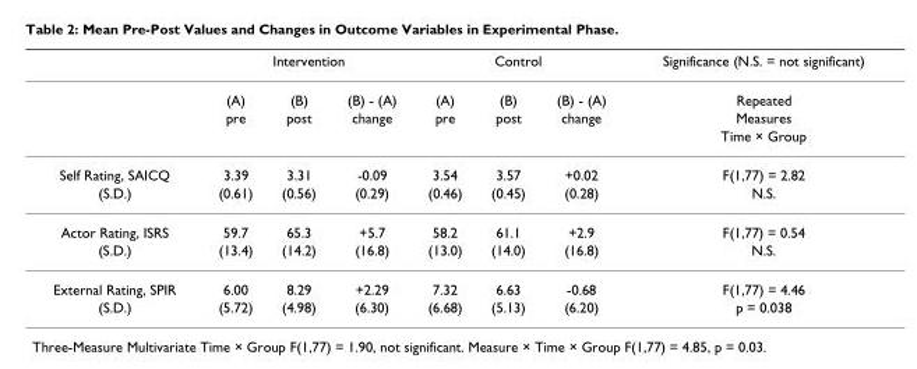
<table><thead><tr><td rowspan="2"></td><td colspan="3">Intervention</td><td colspan="3">Control</td><td rowspan="2">Significance (N.S. = not significant) Repeated</td></tr><tr><td>(A)</td><td>(B)</td><td>(B) - (A)</td><td>(A)</td><td>(B)</td><td>(B) - (A)</td></tr></thead><tbody><tr><td></td><td>pre</td><td>post</td><td>change</td><td>pre</td><td>post</td><td>change</td><td>Measures</td></tr><tr><td></td><td></td><td></td><td></td><td></td><td></td><td></td><td>Time × Group</td></tr><tr><td>Self Rating, SAICQ</td><td>3.39</td><td>3.31</td><td>-0.09</td><td>3.54</td><td>3.57</td><td>+0.02</td><td>F(1,77) = 2.82</td></tr><tr><td>(S.D.)</td><td>(0.61)</td><td>(0.56)</td><td>(0.29)</td><td>(0.46)</td><td>(0.45)</td><td>(0.28)</td><td>N.S.</td></tr><tr><td>Actor Rating, ISRS</td><td>59.7</td><td>65.3</td><td>+5.7</td><td>58.2</td><td>61.1</td><td>+2.9</td><td>F(1,77) = 0.54</td></tr><tr><td>(S.D.)</td><td>(13.4)</td><td>(14.2)</td><td>(16.8)</td><td>(13.0)</td><td>(14.0)</td><td>(16.8)</td><td>N.S.</td></tr><tr><td>External Rating, SPIR</td><td>6.00</td><td>8.29</td><td>+2.29</td><td>7.32</td><td>6.63</td><td>-0.68</td><td>F(1,77) = 4.46</td></tr><tr><td>(S.D.)</td><td>(5.72)</td><td>(4.98)</td><td>(6.30)</td><td>(6.68)</td><td>(5.13)</td><td>(6.20)</td><td>p = 0.038</td></tr></tbody></table>